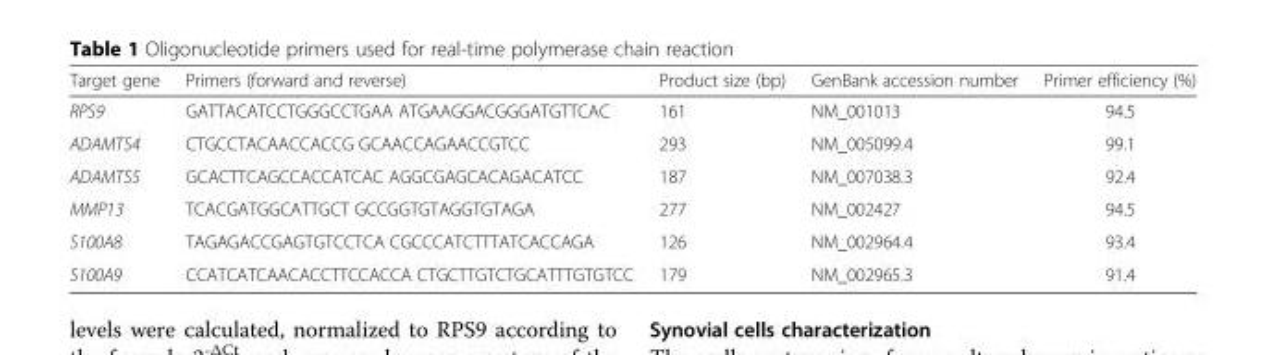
<table><thead><tr><td>Target gene</td><td>Primers (forward and reverse)</td><td>Product size (bp)</td><td>GenBank accession number</td><td>Primer efficiency (%)</td></tr></thead><tbody><tr><td>RPS9</td><td>GATTACATCCTGGGCCTGAA ATGAAGGACGGGATGTTCAC</td><td>161</td><td>NM_001013</td><td>94.5</td></tr><tr><td>ADAMTS4</td><td>CTGCCTACAACCACCG GCAACCAGAACCGTCC</td><td>293</td><td>NM_005099.4</td><td>99.1</td></tr><tr><td>ADAMTS5</td><td>GCACTTCAGCCACCATCAC AGGCGAGCACAGACATCC</td><td>187</td><td>NM_007038.3</td><td>92.4</td></tr><tr><td>MMP13</td><td>TCACGATGGCATTGCT GCCGGTGTAGGTGTAGA</td><td>277</td><td>NM_002427</td><td>94.5</td></tr><tr><td>S100A8</td><td>TAGAGACCGAGTGTCCTCA CGCCCATCTTTATCACCAGA</td><td>126</td><td>NM_002964.4</td><td>93.4</td></tr><tr><td>S100A9</td><td>CCATCATCAACACCTTCCACCA CTGCTTGTCTGCATTTGTGTCC</td><td>179</td><td>NM_002965.3</td><td>91.4</td></tr></tbody></table>